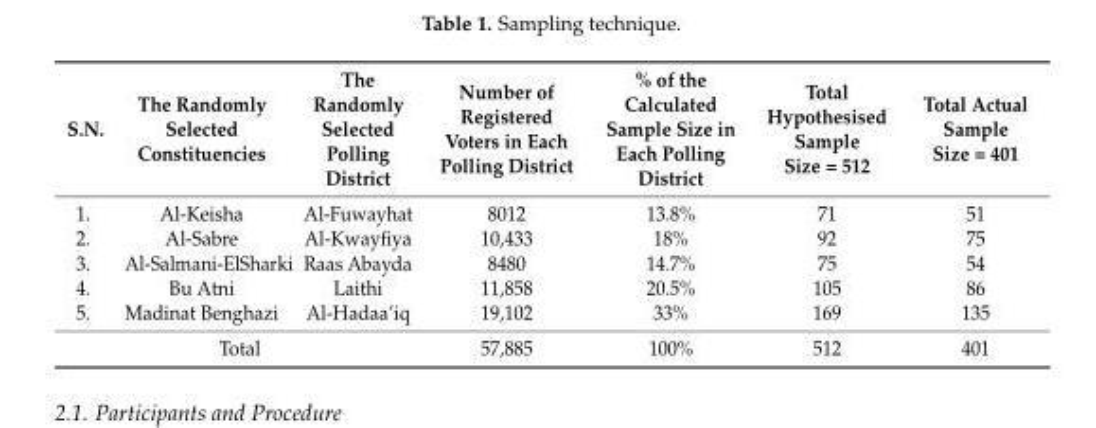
<table><thead><tr><td>S.N.</td><td>The Randomly Selected Constituencies</td><td>The Randomly Selected Polling District</td><td>Number of Registered Voters in Each Polling District</td><td>% of the Calculated Sample Size in Each Polling District</td><td>Total Hypothesised Sample Size = 512</td><td>Total Actual Sample Size = 401</td></tr></thead><tbody><tr><td>1.</td><td>Al-Keisha</td><td>Al-Fuwayhat</td><td>8012</td><td>13.8%</td><td>71</td><td>51</td></tr><tr><td>2.</td><td>Al-Sabre</td><td>Al-Kwayfiya</td><td>10,433</td><td>18%</td><td>92</td><td>75</td></tr><tr><td>3.</td><td>Al-Salmani-ElSharki</td><td>Raas Abayda</td><td>8480</td><td>14.7%</td><td>75</td><td>54</td></tr><tr><td>4.</td><td>Bu Atni</td><td>Laithi</td><td>11,858</td><td>20.5%</td><td>105</td><td>86</td></tr><tr><td>5.</td><td>Madinat Benghazi</td><td>Al-Hadaa’iq</td><td>19,102</td><td>33%</td><td>169</td><td>135</td></tr><tr><td colspan="3">Total</td><td>57,885</td><td>100%</td><td>512</td><td>401</td></tr></tbody></table>